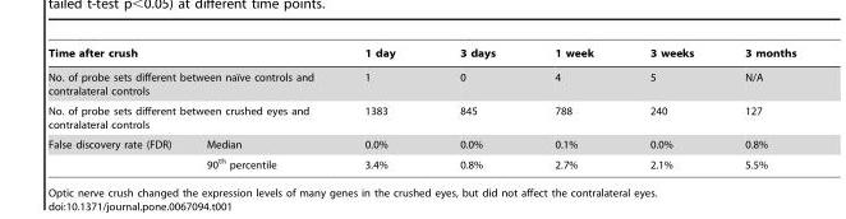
<table><thead><tr><td rowspan="3" colspan="2">Time after crush No. of probe sets different between naı¨ve controls and contralateral controls No. of probe sets different between crushed eyes and contralateral controls</td><td rowspan="4">1 day 1 1383 0.0%</td><td rowspan="4">3 days 0 845 0.0%</td><td rowspan="4">1 week 4 788 0.1%</td><td rowspan="4">3 weeks 5 240 0.0%</td><td rowspan="4">3 months N/A 127 0.8%</td></tr><tr></tr><tr></tr><tr><td>False discovery rate (FDR)</td><td>Median</td></tr></thead><tbody><tr><td></td><td>90<sup>th</sup> percentile</td><td>3.4%</td><td>0.8%</td><td>2.7%</td><td>2.1%</td><td>5.5%</td></tr></tbody></table>